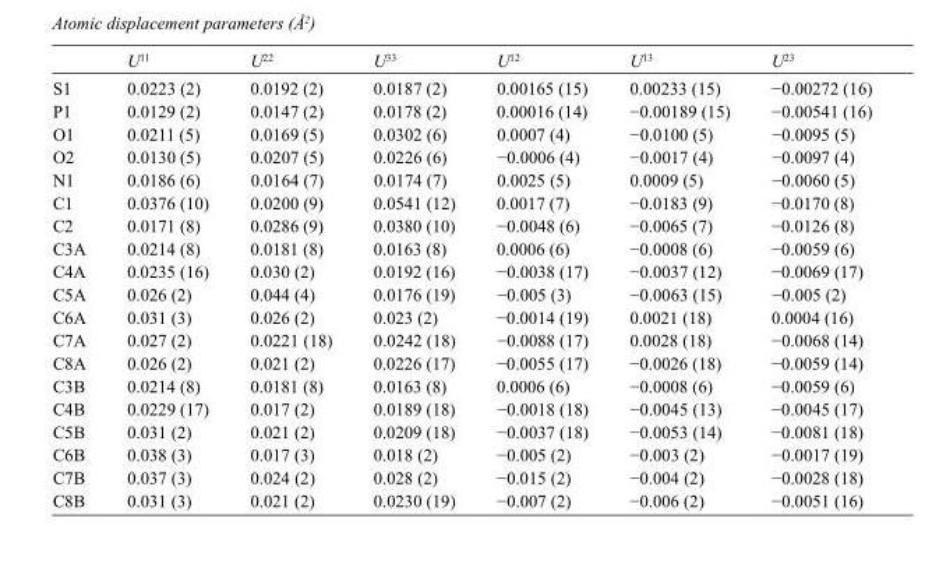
<table><thead><tr><td></td><td>U<sup>11</sup></td><td>U<sup>22</sup></td><td>U<sup>33</sup></td><td>U<sup>12</sup></td><td>U<sup>13</sup></td><td>U<sup>23</sup></td></tr></thead><tbody><tr><td>S1</td><td>0.0223 (2)</td><td>0.0192 (2)</td><td>0.0187 (2)</td><td>0.00165 (15)</td><td>0.00233 (15)</td><td>−0.00272 (16)</td></tr><tr><td>P1</td><td>0.0129 (2)</td><td>0.0147 (2)</td><td>0.0178 (2)</td><td>0.00016 (14)</td><td>−0.00189 (15)</td><td>−0.00541 (16)</td></tr><tr><td>O1</td><td>0.0211 (5)</td><td>0.0169 (5)</td><td>0.0302 (6)</td><td>0.0007 (4)</td><td>−0.0100 (5)</td><td>−0.0095 (5)</td></tr><tr><td>O2</td><td>0.0130 (5)</td><td>0.0207 (5)</td><td>0.0226 (6)</td><td>−0.0006 (4)</td><td>−0.0017 (4)</td><td>−0.0097 (4)</td></tr><tr><td>N1</td><td>0.0186 (6)</td><td>0.0164 (7)</td><td>0.0174 (7)</td><td>0.0025 (5)</td><td>0.0009 (5)</td><td>−0.0060 (5)</td></tr><tr><td>C1</td><td>0.0376 (10)</td><td>0.0200 (9)</td><td>0.0541 (12)</td><td>0.0017 (7)</td><td>−0.0183 (9)</td><td>−0.0170 (8)</td></tr><tr><td>C2</td><td>0.0171 (8)</td><td>0.0286 (9)</td><td>0.0380 (10)</td><td>−0.0048 (6)</td><td>−0.0065 (7)</td><td>−0.0126 (8)</td></tr><tr><td>C3A</td><td>0.0214 (8)</td><td>0.0181 (8)</td><td>0.0163 (8)</td><td>0.0006 (6)</td><td>−0.0008 (6)</td><td>−0.0059 (6)</td></tr><tr><td>C4A</td><td>0.0235 (16)</td><td>0.030 (2)</td><td>0.0192 (16)</td><td>−0.0038 (17)</td><td>−0.0037 (12)</td><td>−0.0069 (17)</td></tr><tr><td>C5A</td><td>0.026 (2)</td><td>0.044 (4)</td><td>0.0176 (19)</td><td>−0.005 (3)</td><td>−0.0063 (15)</td><td>−0.005 (2)</td></tr><tr><td>C6A</td><td>0.031 (3)</td><td>0.026 (2)</td><td>0.023 (2)</td><td>−0.0014 (19)</td><td>0.0021 (18)</td><td>0.0004 (16)</td></tr><tr><td>C7A</td><td>0.027 (2)</td><td>0.0221 (18)</td><td>0.0242 (18)</td><td>−0.0088 (17)</td><td>0.0028 (18)</td><td>−0.0068 (14)</td></tr><tr><td>C8A</td><td>0.026 (2)</td><td>0.021 (2)</td><td>0.0226 (17)</td><td>−0.0055 (17)</td><td>−0.0026 (18)</td><td>−0.0059 (14)</td></tr><tr><td>C3B</td><td>0.0214 (8)</td><td>0.0181 (8)</td><td>0.0163 (8)</td><td>0.0006 (6)</td><td>−0.0008 (6)</td><td>−0.0059 (6)</td></tr><tr><td>C4B</td><td>0.0229 (17)</td><td>0.017 (2)</td><td>0.0189 (18)</td><td>−0.0018 (18)</td><td>−0.0045 (13)</td><td>−0.0045 (17)</td></tr><tr><td>C5B</td><td>0.031 (2)</td><td>0.021 (2)</td><td>0.0209 (18)</td><td>−0.0037 (18)</td><td>−0.0053 (14)</td><td>−0.0081 (18)</td></tr><tr><td>C6B</td><td>0.038 (3)</td><td>0.017 (3)</td><td>0.018 (2)</td><td>−0.005 (2)</td><td>−0.003 (2)</td><td>−0.0017 (19)</td></tr><tr><td>C7B</td><td>0.037 (3)</td><td>0.024 (2)</td><td>0.028 (2)</td><td>−0.015 (2)</td><td>−0.004 (2)</td><td>−0.0028 (18)</td></tr><tr><td>C8B</td><td>0.031 (3)</td><td>0.021 (2)</td><td>0.0230 (19)</td><td>−0.007 (2)</td><td>−0.006 (2)</td><td>−0.0051 (16)</td></tr></tbody></table>